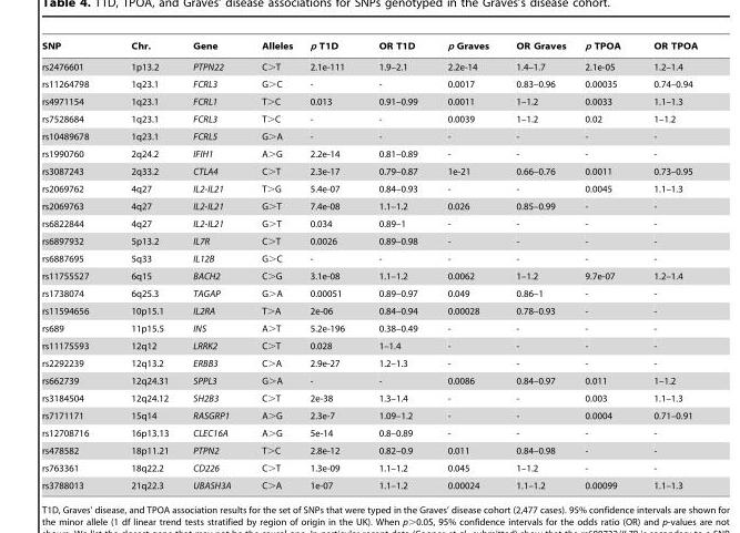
<table><thead><tr><td>SNP</td><td>Chr.</td><td>Gene</td><td>Alleles</td><td>p T1D</td><td>OR T1D</td><td>p Graves</td><td>OR Graves</td><td>p TPOA</td><td>OR TPOA</td></tr></thead><tbody><tr><td>rs2476601</td><td>1p13.2</td><td>PTPN22</td><td>C&gt;T</td><td>2.1e-111</td><td>1.9–2.1</td><td>2.2e-14</td><td>1.4–1.7</td><td>2.1e-05</td><td>1.2–1.4</td></tr><tr><td>rs11264798</td><td>1q23.1</td><td>FCRL3</td><td>G&gt;C</td><td>-</td><td>-</td><td>0.0017</td><td>0.83–0.96</td><td>0.00035</td><td>0.74–0.94</td></tr><tr><td>rs4971154</td><td>1q23.1</td><td>FCRL1</td><td>T&gt;C</td><td>0.013</td><td>0.91–0.99</td><td>0.0011</td><td>1–1.2</td><td>0.0033</td><td>1.1–1.3</td></tr><tr><td>rs7528684</td><td>1q23.1</td><td>FCRL3</td><td>T&gt;C</td><td>-</td><td>-</td><td>0.0039</td><td>1–1.2</td><td>0.02</td><td>1–1.2</td></tr><tr><td>rs10489678</td><td>1q23.1</td><td>FCRL5</td><td>G&gt;A</td><td>-</td><td>-</td><td>-</td><td>-</td><td>-</td><td>-</td></tr><tr><td>rs1990760</td><td>2q24.2</td><td>IFIH1</td><td>A&gt;G</td><td>2.2e-14</td><td>0.81–0.89</td><td>-</td><td>-</td><td>-</td><td>-</td></tr><tr><td>rs3087243</td><td>2q33.2</td><td>CTLA4</td><td>C&gt;T</td><td>2.3e-17</td><td>0.79–0.87</td><td>1e-21</td><td>0.66–0.76</td><td>0.0011</td><td>0.73–0.95</td></tr><tr><td>rs2069762</td><td>4q27</td><td>IL2-IL21</td><td>T&gt;G</td><td>5.4e-07</td><td>0.84–0.93</td><td>-</td><td>-</td><td>0.0045</td><td>1.1–1.3</td></tr><tr><td>rs2069763</td><td>4q27</td><td>IL2-IL21</td><td>G&gt;T</td><td>7.4e-08</td><td>1.1–1.2</td><td>0.026</td><td>0.85–0.99</td><td>-</td><td>-</td></tr><tr><td>rs6822844</td><td>4q27</td><td>IL2-IL21</td><td>G&gt;T</td><td>0.034</td><td>0.89–1</td><td>-</td><td>-</td><td>-</td><td>-</td></tr><tr><td>rs6897932</td><td>5p13.2</td><td>IL7R</td><td>C&gt;T</td><td>0.0026</td><td>0.89–0.98</td><td>-</td><td>-</td><td>-</td><td>-</td></tr><tr><td>rs6887695</td><td>5q33</td><td>IL12B</td><td>G&gt;C</td><td>-</td><td>-</td><td>-</td><td>-</td><td>-</td><td>-</td></tr><tr><td>rs11755527</td><td>6q15</td><td>BACH2</td><td>C&gt;G</td><td>3.1e-08</td><td>1.1–1.2</td><td>0.0062</td><td>1–1.2</td><td>9.7e-07</td><td>1.2–1.4</td></tr><tr><td>rs1738074</td><td>6q25.3</td><td>TAGAP</td><td>G&gt;A</td><td>0.00051</td><td>0.89–0.97</td><td>0.049</td><td>0.86–1</td><td>-</td><td>-</td></tr><tr><td>rs11594656</td><td>10p15.1</td><td>IL2RA</td><td>T&gt;A</td><td>2e-06</td><td>0.84–0.94</td><td>0.00028</td><td>0.78–0.93</td><td>-</td><td>-</td></tr><tr><td>rs689</td><td>11p15.5</td><td>INS</td><td>A&gt;T</td><td>5.2e-196</td><td>0.38–0.49</td><td>-</td><td>-</td><td>-</td><td>-</td></tr><tr><td>rs11175593</td><td>12q12</td><td>LRRK2</td><td>C&gt;T</td><td>0.028</td><td>1–1.4</td><td>-</td><td>-</td><td>-</td><td>-</td></tr><tr><td>rs2292239</td><td>12q13.2</td><td>ERBB3</td><td>C&gt;A</td><td>2.9e-27</td><td>1.2–1.3</td><td>-</td><td>-</td><td>-</td><td>-</td></tr><tr><td>rs662739</td><td>12q24.31</td><td>SPPL3</td><td>G&gt;A</td><td>-</td><td>-</td><td>0.0086</td><td>0.84–0.97</td><td>0.011</td><td>1–1.2</td></tr><tr><td>rs3184504</td><td>12q24.12</td><td>SH2B3</td><td>C&gt;T</td><td>2e-38</td><td>1.3–1.4</td><td>-</td><td>-</td><td>0.003</td><td>1.1–1.3</td></tr><tr><td>rs7171171</td><td>15q14</td><td>RASGRP1</td><td>A&gt;G</td><td>2.3e-7</td><td>1.09–1.2</td><td>-</td><td>-</td><td>0.0004</td><td>0.71–0.91</td></tr><tr><td>rs12708716</td><td>16p13.13</td><td>CLEC16A</td><td>A&gt;G</td><td>5e-14</td><td>0.8–0.89</td><td>-</td><td>-</td><td>-</td><td>-</td></tr><tr><td>rs478582</td><td>18p11.21</td><td>PTPN2</td><td>T&gt;C</td><td>2.8e-12</td><td>0.82–0.9</td><td>0.011</td><td>0.84–0.98</td><td>-</td><td>-</td></tr><tr><td>rs763361</td><td>18q22.2</td><td>CD226</td><td>C&gt;T</td><td>1.3e-09</td><td>1.1–1.2</td><td>0.045</td><td>1–1.2</td><td>-</td><td>-</td></tr><tr><td>rs3788013</td><td>21q22.3</td><td>UBASH3A</td><td>C&gt;A</td><td>1e-07</td><td>1.1–1.2</td><td>0.00024</td><td>1.1–1.2</td><td>0.00099</td><td>1.1–1.3</td></tr></tbody></table>